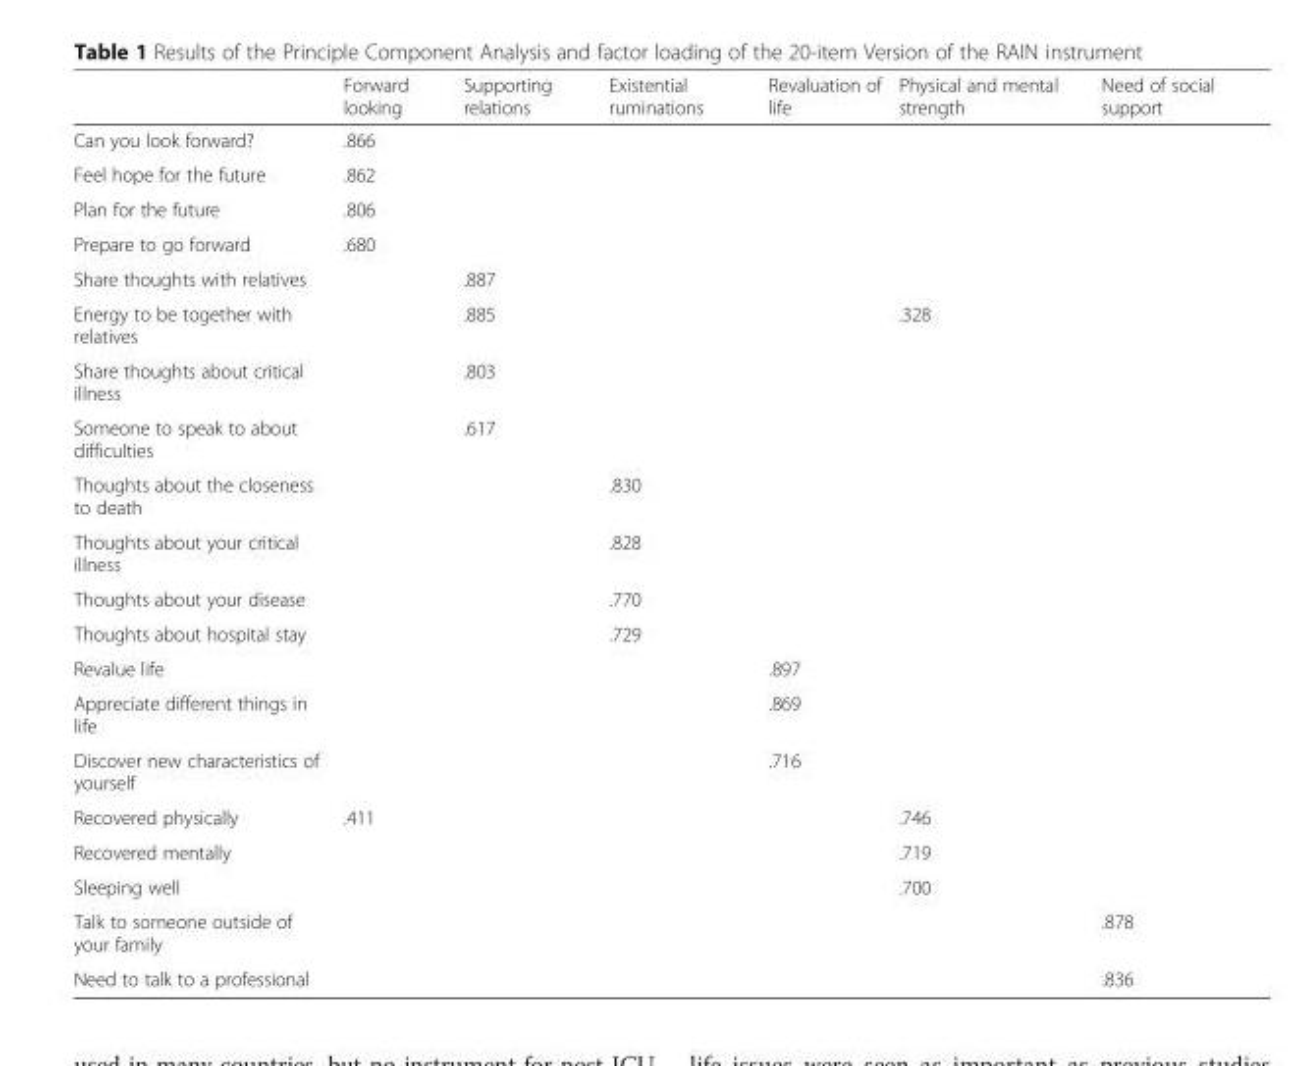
<table><thead><tr><td></td><td>Forward looking</td><td>Supporting relations</td><td>Existential ruminations</td><td>Revaluation of life</td><td>Physical and mental strength</td><td>Need of social support</td></tr></thead><tbody><tr><td>Can you look forward?</td><td>.866</td><td></td><td></td><td></td><td></td><td></td></tr><tr><td>Feel hope for the future</td><td>.862</td><td></td><td></td><td></td><td></td><td></td></tr><tr><td>Plan for the future</td><td>.806</td><td></td><td></td><td></td><td></td><td></td></tr><tr><td>Prepare to go forward</td><td>.680</td><td></td><td></td><td></td><td></td><td></td></tr><tr><td>Share thoughts with relatives</td><td></td><td>.887</td><td></td><td></td><td></td><td></td></tr><tr><td>Energy to be together with relatives</td><td></td><td>.885</td><td></td><td></td><td>.328</td><td></td></tr><tr><td>Share thoughts about critical illness</td><td></td><td>.803</td><td></td><td></td><td></td><td></td></tr><tr><td>Someone to speak to about difficulties</td><td></td><td>.617</td><td></td><td></td><td></td><td></td></tr><tr><td>Thoughts about the closeness to death</td><td></td><td></td><td>.830</td><td></td><td></td><td></td></tr><tr><td>Thoughts about your critical illness</td><td></td><td></td><td>.828</td><td></td><td></td><td></td></tr><tr><td>Thoughts about your disease</td><td></td><td></td><td>.770</td><td></td><td></td><td></td></tr><tr><td>Thoughts about hospital stay</td><td></td><td></td><td>.729</td><td></td><td></td><td></td></tr><tr><td>Revalue life</td><td></td><td></td><td></td><td>.897</td><td></td><td></td></tr><tr><td>Appreciate different things in life</td><td></td><td></td><td></td><td>.869</td><td></td><td></td></tr><tr><td>Discover new characteristics of yourself</td><td></td><td></td><td></td><td>.716</td><td></td><td></td></tr><tr><td>Recovered physically</td><td>.411</td><td></td><td></td><td></td><td>.746</td><td></td></tr><tr><td>Recovered mentally</td><td></td><td></td><td></td><td></td><td>.719</td><td></td></tr><tr><td>Sleeping well</td><td></td><td></td><td></td><td></td><td>.700</td><td></td></tr><tr><td>Talk to someone outside of your family</td><td></td><td></td><td></td><td></td><td></td><td>.878</td></tr><tr><td>Need to talk to a professional</td><td></td><td></td><td></td><td></td><td></td><td>.836</td></tr></tbody></table>